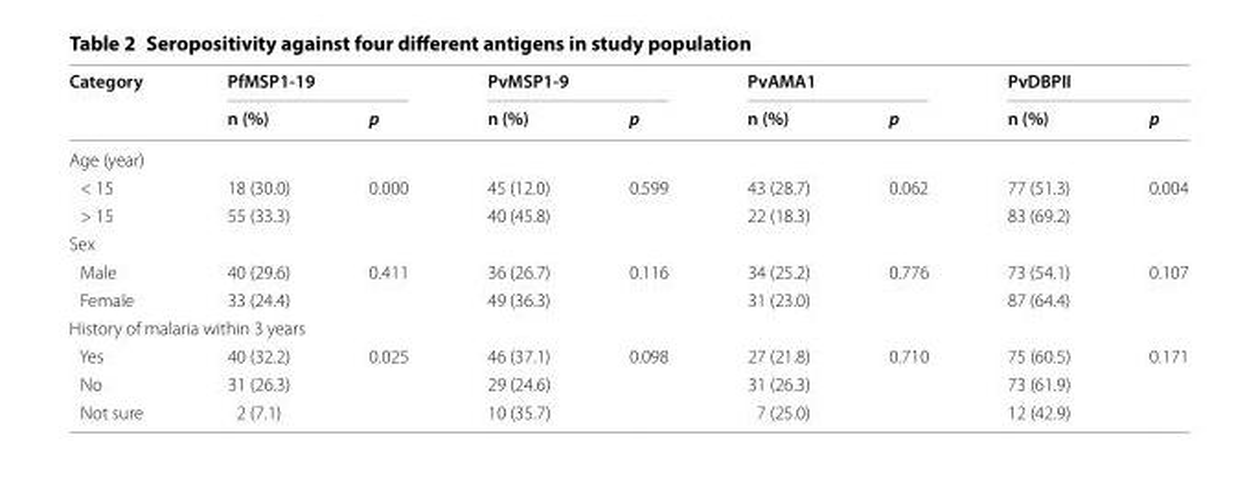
<table><thead><tr><td rowspan="2">Category</td><td colspan="2">PfMSP1-19</td><td colspan="2">PvMSP1-9</td><td colspan="2">PvAMA1</td><td colspan="2">PvDBPII</td></tr><tr><td>n (%)</td><td>p</td><td>n (%)</td><td>p</td><td>n (%)</td><td>p</td><td>n (%)</td><td>p</td></tr></thead><tbody><tr><td colspan="9">Age (year)</td></tr><tr><td>&lt; 15</td><td>18 (30.0)</td><td rowspan="2">0.000</td><td>45 (12.0)</td><td rowspan="2">0.599</td><td>43 (28.7)</td><td rowspan="2">0.062</td><td>77 (51.3)</td><td rowspan="2">0.004</td></tr><tr><td>&gt; 15</td><td>55 (33.3)</td><td>40 (45.8)</td><td>22 (18.3)</td><td>83 (69.2)</td></tr><tr><td colspan="9">Sex</td></tr><tr><td>Male</td><td>40 (29.6)</td><td rowspan="2">0.411</td><td>36 (26.7)</td><td rowspan="2">0.116</td><td>34 (25.2)</td><td rowspan="2">0.776</td><td>73 (54.1)</td><td rowspan="2">0.107</td></tr><tr><td>Female</td><td>33 (24.4)</td><td>49 (36.3)</td><td>31 (23.0)</td><td>87 (64.4)</td></tr><tr><td colspan="9">History of malaria within 3 years</td></tr><tr><td>Yes</td><td>40 (32.2)</td><td rowspan="3">0.025</td><td>46 (37.1)</td><td rowspan="3">0.098</td><td>27 (21.8)</td><td rowspan="3">0.710</td><td>75 (60.5)</td><td rowspan="3">0.171</td></tr><tr><td>No</td><td>31 (26.3)</td><td>29 (24.6)</td><td>31 (26.3)</td><td>73 (61.9)</td></tr><tr><td>Not sure</td><td>2 (7.1)</td><td>10 (35.7)</td><td>7 (25.0)</td><td>12 (42.9)</td></tr></tbody></table>